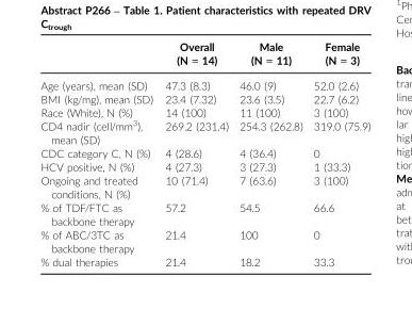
<table><thead><tr><td></td><td>Overall (N = 14)</td><td>Male (N = 11)</td><td>Female (N = 3)</td></tr></thead><tbody><tr><td>Age (years), mean (SD)</td><td>47.3 (8.3)</td><td>46.0 (9)</td><td>52.0 (2.6)</td></tr><tr><td>BMI (kg/mg), mean (SD)</td><td>23.4 (7.32)</td><td>23.6 (3.5)</td><td>22.7 (6.2)</td></tr><tr><td>Race (White), N (%)</td><td>14 (100)</td><td>11 (100)</td><td>3 (100)</td></tr><tr><td>CD4 nadir (cell/mm<sup>3</sup>), mean (SD)</td><td>269.2 (231.4)</td><td>254.3 (262.8)</td><td>319.0 (75.9)</td></tr><tr><td>CDC category C, N (%)</td><td>4 (28.6)</td><td>4 (36.4)</td><td>0</td></tr><tr><td>HCV positive, N (%)</td><td>4 (27.3)</td><td>3 (27.3)</td><td>1 (33.3)</td></tr><tr><td>Ongoing and treated conditions, N (%)</td><td>10 (71.4)</td><td>7 (63.6)</td><td>3 (100)</td></tr><tr><td>% of TDF/FTC as backbone therapy</td><td>57.2</td><td>54.5</td><td>66.6</td></tr><tr><td>% of ABC/3TC as backbone therapy</td><td>21.4</td><td>100</td><td>0</td></tr><tr><td>% dual therapies</td><td>21.4</td><td>18.2</td><td>33.3</td></tr></tbody></table>